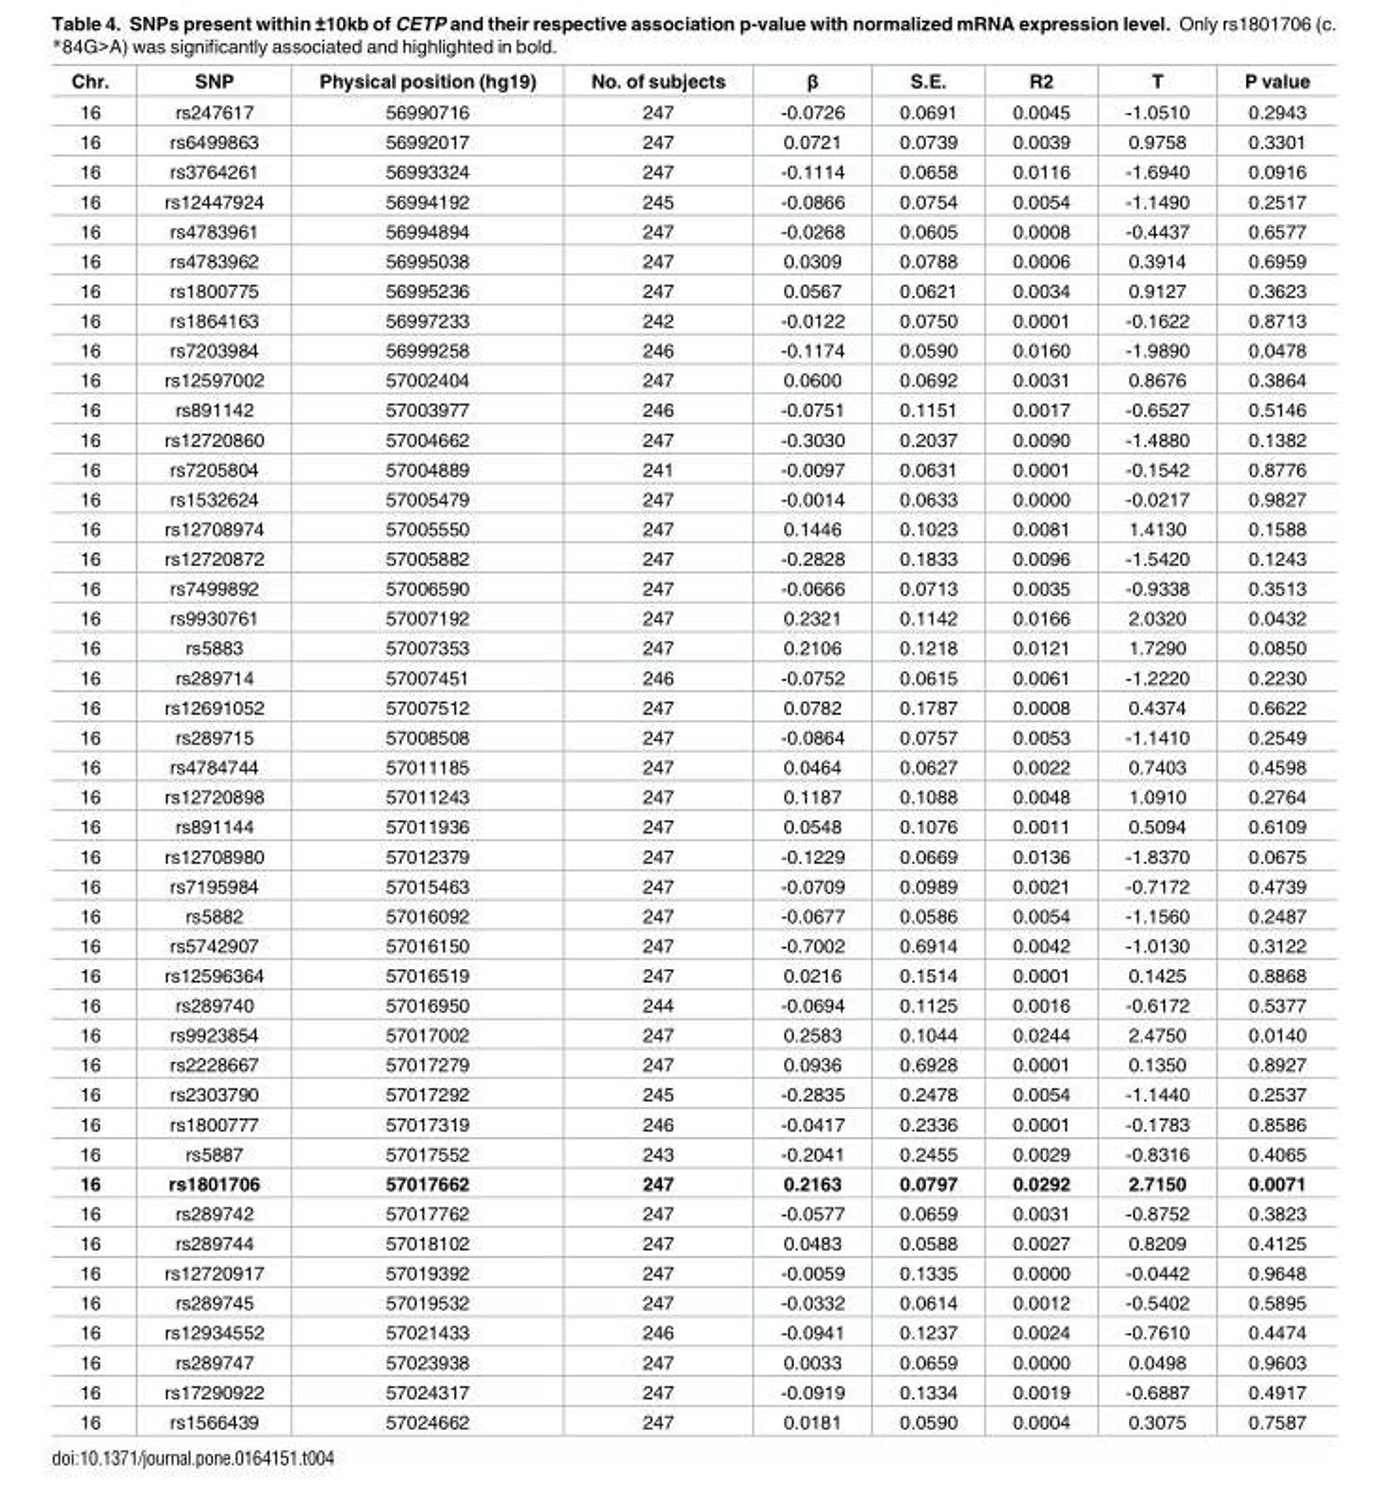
<table><thead><tr><td>Chr.</td><td>SNP</td><td>Physical position (hg19)</td><td>No. of subjects</td><td>β</td><td>S.E.</td><td>R2</td><td>T</td><td>P value</td></tr></thead><tbody><tr><td>16</td><td>rs247617</td><td>56990716</td><td>247</td><td>-0.0726</td><td>0.0691</td><td>0.0045</td><td>-1.0510</td><td>0.2943</td></tr><tr><td>16</td><td>rs6499863</td><td>56992017</td><td>247</td><td>0.0721</td><td>0.0739</td><td>0.0039</td><td>0.9758</td><td>0.3301</td></tr><tr><td>16</td><td>rs3764261</td><td>56993324</td><td>247</td><td>-0.1114</td><td>0.0658</td><td>0.0116</td><td>-1.6940</td><td>0.0916</td></tr><tr><td>16</td><td>rs12447924</td><td>56994192</td><td>245</td><td>-0.0866</td><td>0.0754</td><td>0.0054</td><td>-1.1490</td><td>0.2517</td></tr><tr><td>16</td><td>rs4783961</td><td>56994894</td><td>247</td><td>-0.0268</td><td>0.0605</td><td>0.0008</td><td>-0.4437</td><td>0.6577</td></tr><tr><td>16</td><td>rs4783962</td><td>56995038</td><td>247</td><td>0.0309</td><td>0.0788</td><td>0.0006</td><td>0.3914</td><td>0.6959</td></tr><tr><td>16</td><td>rs1800775</td><td>56995236</td><td>247</td><td>0.0567</td><td>0.0621</td><td>0.0034</td><td>0.9127</td><td>0.3623</td></tr><tr><td>16</td><td>rs1864163</td><td>56997233</td><td>242</td><td>-0.0122</td><td>0.0750</td><td>0.0001</td><td>-0.1622</td><td>0.8713</td></tr><tr><td>16</td><td>rs7203984</td><td>56999258</td><td>246</td><td>-0.1174</td><td>0.0590</td><td>0.0160</td><td>-1.9890</td><td>0.0478</td></tr><tr><td>16</td><td>rs12597002</td><td>57002404</td><td>247</td><td>0.0600</td><td>0.0692</td><td>0.0031</td><td>0.8676</td><td>0.3864</td></tr><tr><td>16</td><td>rs891142</td><td>57003977</td><td>246</td><td>-0.0751</td><td>0.1151</td><td>0.0017</td><td>-0.6527</td><td>0.5146</td></tr><tr><td>16</td><td>rs12720860</td><td>57004662</td><td>247</td><td>-0.3030</td><td>0.2037</td><td>0.0090</td><td>-1.4880</td><td>0.1382</td></tr><tr><td>16</td><td>rs7205804</td><td>57004889</td><td>241</td><td>-0.0097</td><td>0.0631</td><td>0.0001</td><td>-0.1542</td><td>0.8776</td></tr><tr><td>16</td><td>rs1532624</td><td>57005479</td><td>247</td><td>-0.0014</td><td>0.0633</td><td>0.0000</td><td>-0.0217</td><td>0.9827</td></tr><tr><td>16</td><td>rs12708974</td><td>57005550</td><td>247</td><td>0.1446</td><td>0.1023</td><td>0.0081</td><td>1.4130</td><td>0.1588</td></tr><tr><td>16</td><td>rs12720872</td><td>57005882</td><td>247</td><td>-0.2828</td><td>0.1833</td><td>0.0096</td><td>-1.5420</td><td>0.1243</td></tr><tr><td>16</td><td>rs7499892</td><td>57006590</td><td>247</td><td>-0.0666</td><td>0.0713</td><td>0.0035</td><td>-0.9338</td><td>0.3513</td></tr><tr><td>16</td><td>rs9930761</td><td>57007192</td><td>247</td><td>0.2321</td><td>0.1142</td><td>0.0166</td><td>2.0320</td><td>0.0432</td></tr><tr><td>16</td><td>rs5883</td><td>57007353</td><td>247</td><td>0.2106</td><td>0.1218</td><td>0.0121</td><td>1.7290</td><td>0.0850</td></tr><tr><td>16</td><td>rs289714</td><td>57007451</td><td>246</td><td>-0.0752</td><td>0.0615</td><td>0.0061</td><td>-1.2220</td><td>0.2230</td></tr><tr><td>16</td><td>rs12691052</td><td>57007512</td><td>247</td><td>0.0782</td><td>0.1787</td><td>0.0008</td><td>0.4374</td><td>0.6622</td></tr><tr><td>16</td><td>rs289715</td><td>57008508</td><td>247</td><td>-0.0864</td><td>0.0757</td><td>0.0053</td><td>-1.1410</td><td>0.2549</td></tr><tr><td>16</td><td>rs4784744</td><td>57011185</td><td>247</td><td>0.0464</td><td>0.0627</td><td>0.0022</td><td>0.7403</td><td>0.4598</td></tr><tr><td>16</td><td>rs12720898</td><td>57011243</td><td>247</td><td>0.1187</td><td>0.1088</td><td>0.0048</td><td>1.0910</td><td>0.2764</td></tr><tr><td>16</td><td>rs891144</td><td>57011936</td><td>247</td><td>0.0548</td><td>0.1076</td><td>0.0011</td><td>0.5094</td><td>0.6109</td></tr><tr><td>16</td><td>rs12708980</td><td>57012379</td><td>247</td><td>-0.1229</td><td>0.0669</td><td>0.0136</td><td>-1.8370</td><td>0.0675</td></tr><tr><td>16</td><td>rs7195984</td><td>57015463</td><td>247</td><td>-0.0709</td><td>0.0989</td><td>0.0021</td><td>-0.7172</td><td>0.4739</td></tr><tr><td>16</td><td>rs5882</td><td>57016092</td><td>247</td><td>-0.0677</td><td>0.0586</td><td>0.0054</td><td>-1.1560</td><td>0.2487</td></tr><tr><td>16</td><td>rs5742907</td><td>57016150</td><td>247</td><td>-0.7002</td><td>0.6914</td><td>0.0042</td><td>-1.0130</td><td>0.3122</td></tr><tr><td>16</td><td>rs12596364</td><td>57016519</td><td>247</td><td>0.0216</td><td>0.1514</td><td>0.0001</td><td>0.1425</td><td>0.8868</td></tr><tr><td>16</td><td>rs289740</td><td>57016950</td><td>244</td><td>-0.0694</td><td>0.1125</td><td>0.0016</td><td>-0.6172</td><td>0.5377</td></tr><tr><td>16</td><td>rs9923854</td><td>57017002</td><td>247</td><td>0.2583</td><td>0.1044</td><td>0.0244</td><td>2.4750</td><td>0.0140</td></tr><tr><td>16</td><td>rs2228667</td><td>57017279</td><td>247</td><td>0.0936</td><td>0.6928</td><td>0.0001</td><td>0.1350</td><td>0.8927</td></tr><tr><td>16</td><td>rs2303790</td><td>57017292</td><td>245</td><td>-0.2835</td><td>0.2478</td><td>0.0054</td><td>-1.1440</td><td>0.2537</td></tr><tr><td>16</td><td>rs1800777</td><td>57017319</td><td>246</td><td>-0.0417</td><td>0.2336</td><td>0.0001</td><td>-0.1783</td><td>0.8586</td></tr><tr><td>16</td><td>rs5887</td><td>57017552</td><td>243</td><td>-0.2041</td><td>0.2455</td><td>0.0029</td><td>-0.8316</td><td>0.4065</td></tr><tr><td>16</td><td>rs1801706</td><td>57017662</td><td>247</td><td>0.2163</td><td>0.0797</td><td>0.0292</td><td>2.7150</td><td>0.0071</td></tr><tr><td>16</td><td>rs289742</td><td>57017762</td><td>247</td><td>-0.0577</td><td>0.0659</td><td>0.0031</td><td>-0.8752</td><td>0.3823</td></tr><tr><td>16</td><td>rs289744</td><td>57018102</td><td>247</td><td>0.0483</td><td>0.0588</td><td>0.0027</td><td>0.8209</td><td>0.4125</td></tr><tr><td>16</td><td>rs12720917</td><td>57019392</td><td>247</td><td>-0.0059</td><td>0.1335</td><td>0.0000</td><td>-0.0442</td><td>0.9648</td></tr><tr><td>16</td><td>rs289745</td><td>57019532</td><td>247</td><td>-0.0332</td><td>0.0614</td><td>0.0012</td><td>-0.5402</td><td>0.5895</td></tr><tr><td>16</td><td>rs12934552</td><td>57021433</td><td>246</td><td>-0.0941</td><td>0.1237</td><td>0.0024</td><td>-0.7610</td><td>0.4474</td></tr><tr><td>16</td><td>rs289747</td><td>57023938</td><td>247</td><td>0.0033</td><td>0.0659</td><td>0.0000</td><td>0.0498</td><td>0.9603</td></tr><tr><td>16</td><td>rs17290922</td><td>57024317</td><td>247</td><td>-0.0919</td><td>0.1334</td><td>0.0019</td><td>-0.6887</td><td>0.4917</td></tr><tr><td>16</td><td>rs1566439</td><td>57024662</td><td>247</td><td>0.0181</td><td>0.0590</td><td>0.0004</td><td>0.3075</td><td>0.7587</td></tr></tbody></table>